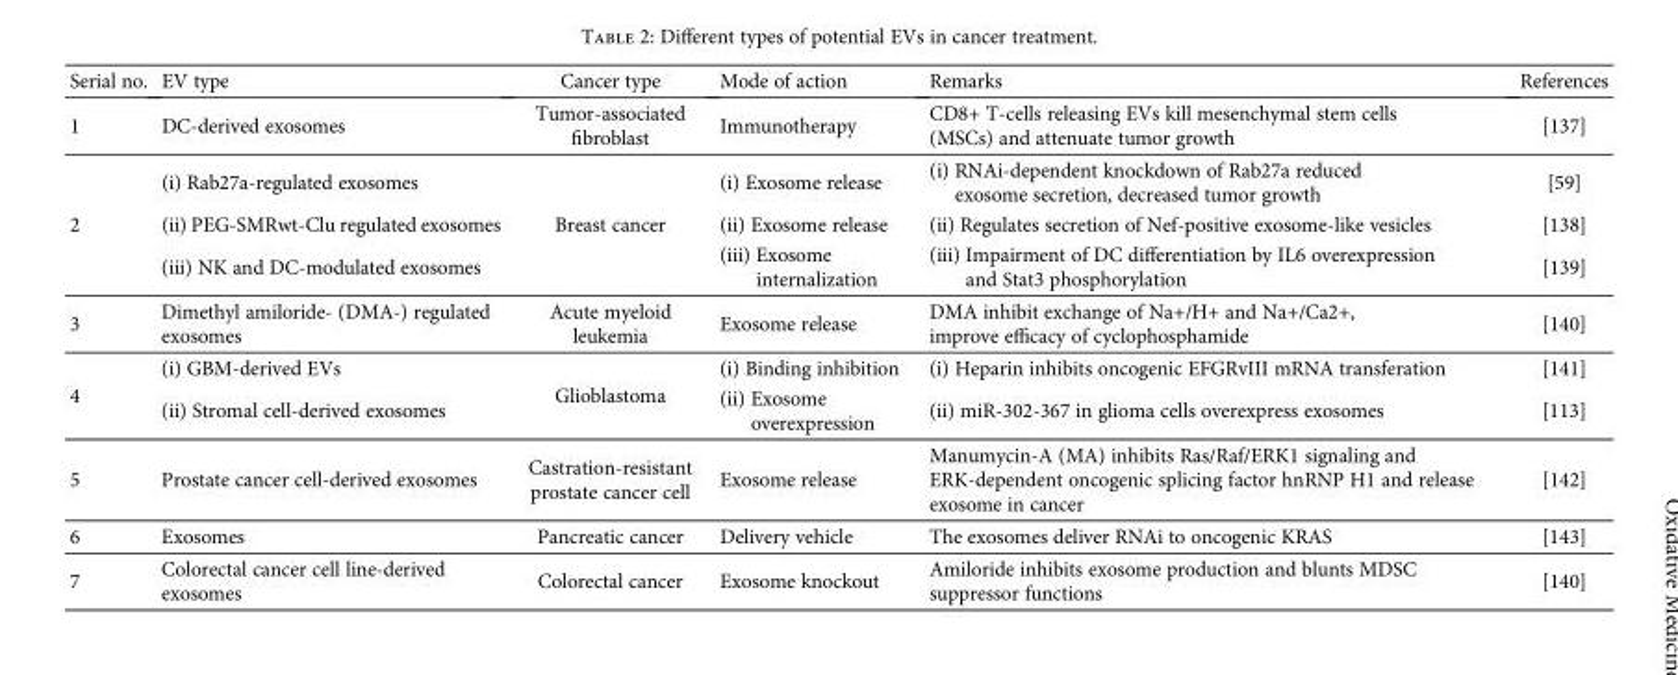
<table><thead><tr><td>Serial no.</td><td>EV type</td><td>Cancer type</td><td>Mode of action</td><td>Remarks</td><td>References</td></tr></thead><tbody><tr><td>1</td><td>DC-derived exosomes</td><td>Tumor-associated fibroblast</td><td>Immunotherapy</td><td>CD8+ T-cells releasing EVs kill mesenchymal stem cells (MSCs) and attenuate tumor growth</td><td>[137]</td></tr><tr><td rowspan="3">2</td><td>(i) Rab27a-regulated exosomes</td><td rowspan="3">Breast cancer</td><td>(i) Exosome release</td><td>(i) RNAi-dependent knockdown of Rab27a reduced exosome secretion, decreased tumor growth</td><td>[59]</td></tr><tr><td>(ii) PEG-SMRwt-Clu regulated exosomes</td><td>(ii) Exosome release</td><td>(ii) Regulates secretion of Nef-positive exosome-like vesicles</td><td>[138]</td></tr><tr><td>(iii) NK and DC-modulated exosomes</td><td>(iii) Exosome internalization</td><td>(iii) Impairment of DC differentiation by IL6 overexpression and Stat3 phosphorylation</td><td>[139]</td></tr><tr><td>3</td><td>Dimethyl amiloride- (DMA-) regulated exosomes</td><td>Acute myeloid leukemia</td><td>Exosome release</td><td>DMA inhibit exchange of Na+/H+ and Na+/Ca2+, improve efficacy of cyclophosphamide</td><td>[140]</td></tr><tr><td rowspan="2">4</td><td>(i) GBM-derived EVs</td><td rowspan="2">Glioblastoma</td><td>(i) Binding inhibition</td><td>(i) Heparin inhibits oncogenic EFGRvIII mRNA transferation</td><td>[141]</td></tr><tr><td>(ii) Stromal cell-derived exosomes</td><td>(ii) Exosome overexpression</td><td>(ii) miR-302-367 in glioma cells overexpress exosomes</td><td>[113]</td></tr><tr><td>5</td><td>Prostate cancer cell-derived exosomes</td><td>Castration-resistant prostate cancer cell</td><td>Exosome release</td><td>Manumycin-A (MA) inhibits Ras/Raf/ERK1 signaling and ERK-dependent oncogenic splicing factor hnRNP H1 and release exosome in cancer</td><td>[142]</td></tr><tr><td>6</td><td>Exosomes</td><td>Pancreatic cancer</td><td>Delivery vehicle</td><td>The exosomes deliver RNAi to oncogenic KRAS</td><td>[143]</td></tr><tr><td>7</td><td>Colorectal cancer cell line-derived exosomes</td><td>Colorectal cancer</td><td>Exosome knockout</td><td>Amiloride inhibits exosome production and blunts MDSC suppressor functions</td><td>[140]</td></tr></tbody></table>